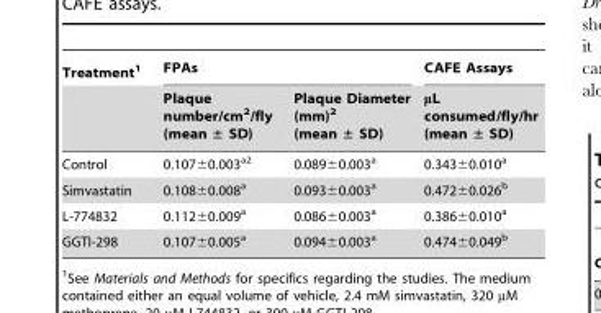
<table><thead><tr><td rowspan="2">Treatment<sup>1</sup></td><td colspan="2">FPAs</td><td rowspan="2">CAFE Assays μL consumed/fly/hr (mean ± SD)</td></tr><tr><td>Plaque number/cm<sup>2</sup>/fly (mean ± SD)</td><td>Plaque Diameter (mm)<sup>2</sup> (mean ± SD)</td></tr></thead><tbody><tr><td>Control</td><td>0.107±0.003<sup>a2</sup></td><td>0.089±0.003<sup>a</sup></td><td>0.343±0.010<sup>a</sup></td></tr><tr><td>Simvastatin</td><td>0.108±0.008<sup>a</sup></td><td>0.093±0.003<sup>a</sup></td><td>0.472±0.026<sup>b</sup></td></tr><tr><td>L-774832</td><td>0.112±0.009<sup>a</sup></td><td>0.086±0.003<sup>a</sup></td><td>0.386±0.010<sup>a</sup></td></tr><tr><td>GGTI-298</td><td>0.107±0.005<sup>a</sup></td><td>0.094±0.003<sup>a</sup></td><td>0.474±0.049<sup>b</sup></td></tr></tbody></table>